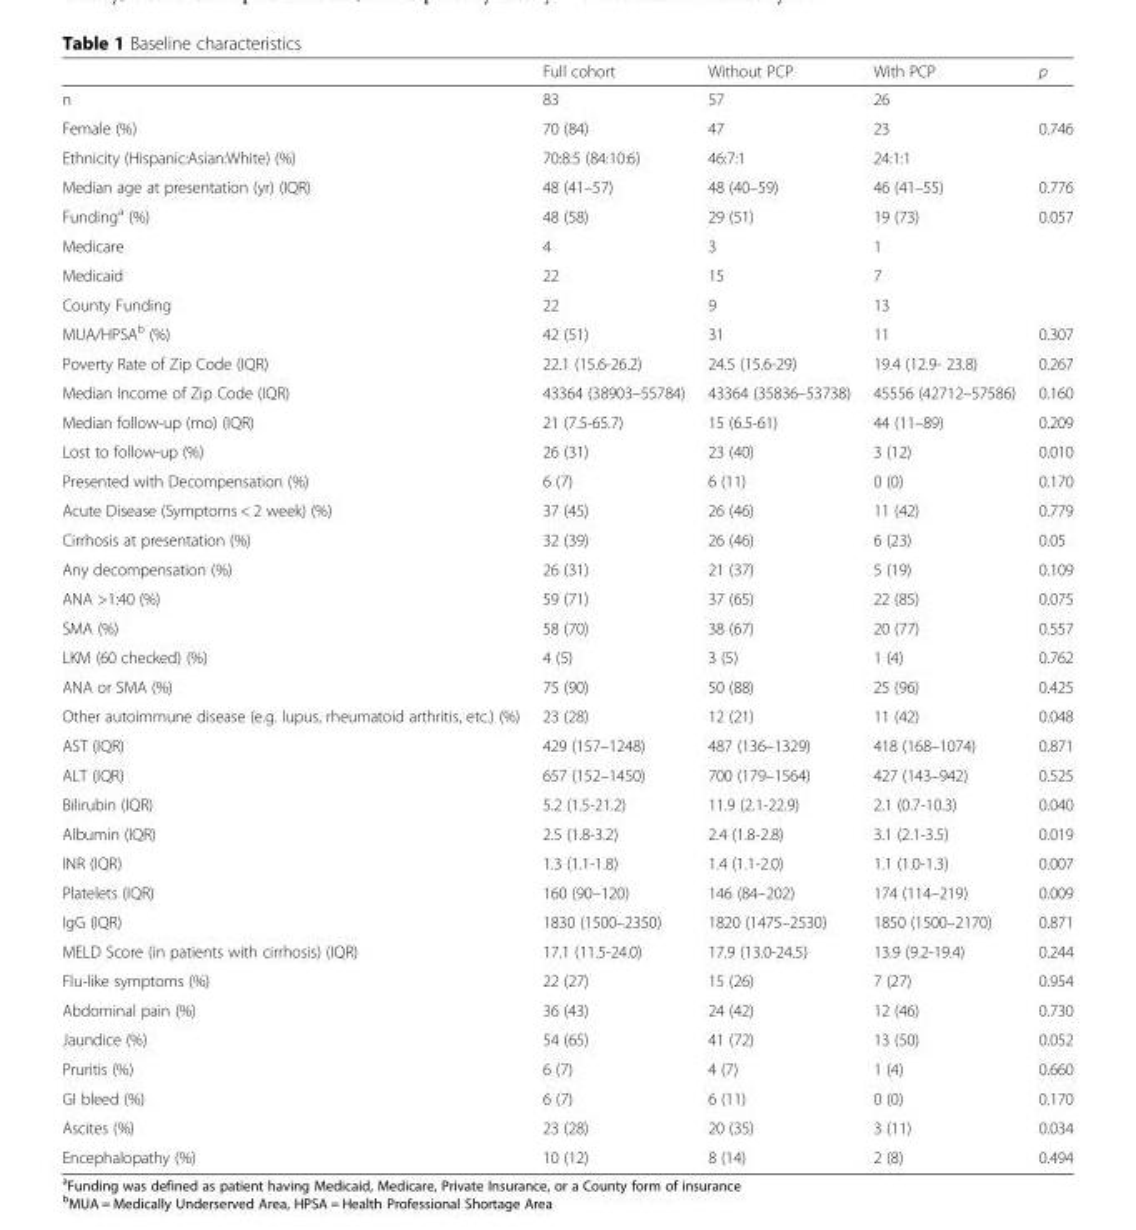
<table><thead><tr><td></td><td>Full cohort</td><td>Without PCP</td><td>With PCP</td><td>p</td></tr></thead><tbody><tr><td>n</td><td>83</td><td>57</td><td>26</td><td></td></tr><tr><td>Female (%)</td><td>70 (84)</td><td>47</td><td>23</td><td>0.746</td></tr><tr><td>Ethnicity (Hispanic:Asian:White) (%)</td><td>70:8:5 (84:10:6)</td><td>46:7:1</td><td>24:1:1</td><td></td></tr><tr><td>Median age at presentation (yr) (IQR)</td><td>48 (41–57)</td><td>48 (40–59)</td><td>46 (41–55)</td><td>0.776</td></tr><tr><td>Funding<sup>a</sup> (%)</td><td>48 (58)</td><td>29 (51)</td><td>19 (73)</td><td>0.057</td></tr><tr><td>Medicare</td><td>4</td><td>3</td><td>1</td><td></td></tr><tr><td>Medicaid</td><td>22</td><td>15</td><td>7</td><td></td></tr><tr><td>County Funding</td><td>22</td><td>9</td><td>13</td><td></td></tr><tr><td>MUA/HPSA<sup>b</sup> (%)</td><td>42 (51)</td><td>31</td><td>11</td><td>0.307</td></tr><tr><td>Poverty Rate of Zip Code (IQR)</td><td>22.1 (15.6-26.2)</td><td>24.5 (15.6-29)</td><td>19.4 (12.9- 23.8)</td><td>0.267</td></tr><tr><td>Median Income of Zip Code (IQR)</td><td>43364 (38903–55784)</td><td>43364 (35836–53738)</td><td>45556 (42712–57586)</td><td>0.160</td></tr><tr><td>Median follow-up (mo) (IQR)</td><td>21 (7.5-65.7)</td><td>15 (6.5-61)</td><td>44 (11–89)</td><td>0.209</td></tr><tr><td>Lost to follow-up (%)</td><td>26 (31)</td><td>23 (40)</td><td>3 (12)</td><td>0.010</td></tr><tr><td>Presented with Decompensation (%)</td><td>6 (7)</td><td>6 (11)</td><td>0 (0)</td><td>0.170</td></tr><tr><td>Acute Disease (Symptoms &lt; 2 week) (%)</td><td>37 (45)</td><td>26 (46)</td><td>11 (42)</td><td>0.779</td></tr><tr><td>Cirrhosis at presentation (%)</td><td>32 (39)</td><td>26 (46)</td><td>6 (23)</td><td>0.05</td></tr><tr><td>Any decompensation (%)</td><td>26 (31)</td><td>21 (37)</td><td>5 (19)</td><td>0.109</td></tr><tr><td>ANA &gt;1:40 (%)</td><td>59 (71)</td><td>37 (65)</td><td>22 (85)</td><td>0.075</td></tr><tr><td>SMA (%)</td><td>58 (70)</td><td>38 (67)</td><td>20 (77)</td><td>0.557</td></tr><tr><td>LKM (60 checked) (%)</td><td>4 (5)</td><td>3 (5)</td><td>1 (4)</td><td>0.762</td></tr><tr><td>ANA or SMA (%)</td><td>75 (90)</td><td>50 (88)</td><td>25 (96)</td><td>0.425</td></tr><tr><td>Other autoimmune disease (e.g. lupus, rheumatoid arthritis, etc.) (%)</td><td>23 (28)</td><td>12 (21)</td><td>11 (42)</td><td>0.048</td></tr><tr><td>AST (IQR)</td><td>429 (157–1248)</td><td>487 (136–1329)</td><td>418 (168–1074)</td><td>0.871</td></tr><tr><td>ALT (IQR)</td><td>657 (152–1450)</td><td>700 (179–1564)</td><td>427 (143–942)</td><td>0.525</td></tr><tr><td>Bilirubin (IQR)</td><td>5.2 (1.5-21.2)</td><td>11.9 (2.1-22.9)</td><td>2.1 (0.7-10.3)</td><td>0.040</td></tr><tr><td>Albumin (IQR)</td><td>2.5 (1.8-3.2)</td><td>2.4 (1.8-2.8)</td><td>3.1 (2.1-3.5)</td><td>0.019</td></tr><tr><td>INR (IQR)</td><td>1.3 (1.1-1.8)</td><td>1.4 (1.1-2.0)</td><td>1.1 (1.0-1.3)</td><td>0.007</td></tr><tr><td>Platelets (IQR)</td><td>160 (90–120)</td><td>146 (84–202)</td><td>174 (114–219)</td><td>0.009</td></tr><tr><td>IgG (IQR)</td><td>1830 (1500–2350)</td><td>1820 (1475–2530)</td><td>1850 (1500–2170)</td><td>0.871</td></tr><tr><td>MELD Score (in patients with cirrhosis) (IQR)</td><td>17.1 (11.5-24.0)</td><td>17.9 (13.0-24.5)</td><td>13.9 (9.2-19.4)</td><td>0.244</td></tr><tr><td>Flu-like symptoms (%)</td><td>22 (27)</td><td>15 (26)</td><td>7 (27)</td><td>0.954</td></tr><tr><td>Abdominal pain (%)</td><td>36 (43)</td><td>24 (42)</td><td>12 (46)</td><td>0.730</td></tr><tr><td>Jaundice (%)</td><td>54 (65)</td><td>41 (72)</td><td>13 (50)</td><td>0.052</td></tr><tr><td>Pruritis (%)</td><td>6 (7)</td><td>4 (7)</td><td>1 (4)</td><td>0.660</td></tr><tr><td>GI bleed (%)</td><td>6 (7)</td><td>6 (11)</td><td>0 (0)</td><td>0.170</td></tr><tr><td>Ascites (%)</td><td>23 (28)</td><td>20 (35)</td><td>3 (11)</td><td>0.034</td></tr><tr><td>Encephalopathy (%)</td><td>10 (12)</td><td>8 (14)</td><td>2 (8)</td><td>0.494</td></tr></tbody></table>